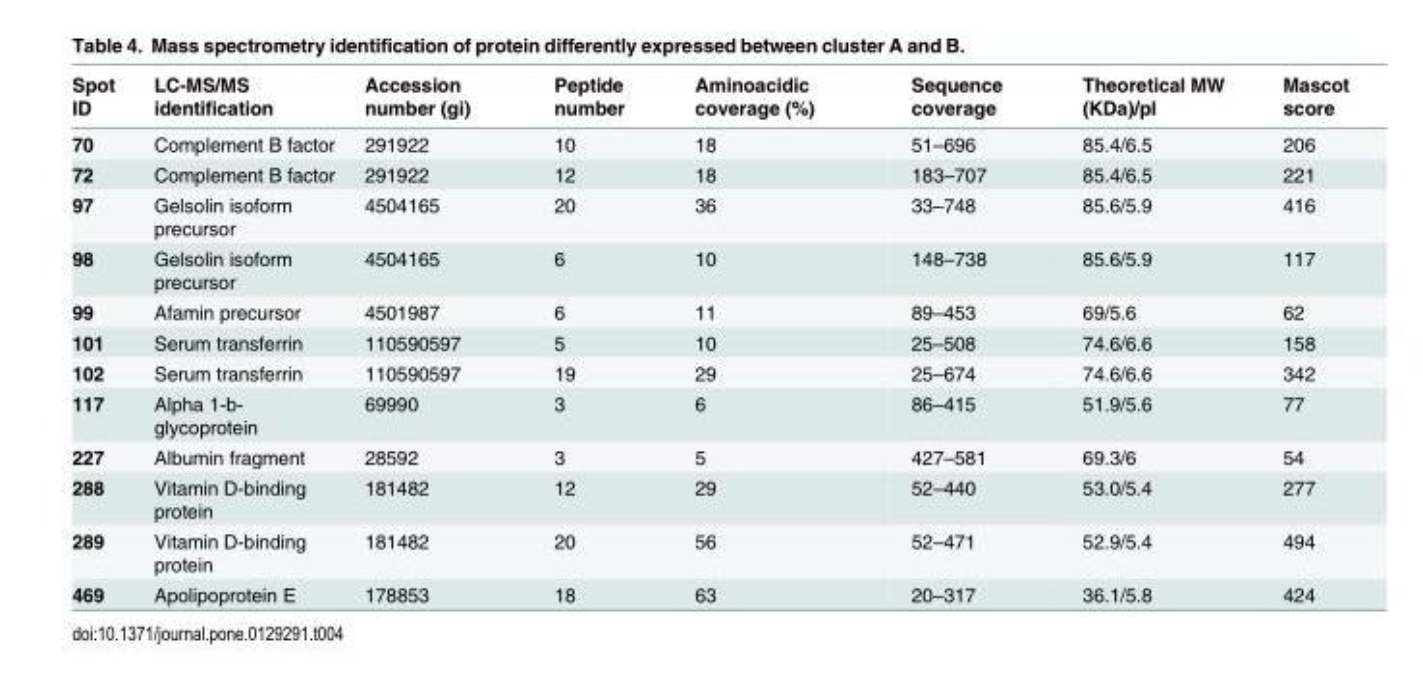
<table><thead><tr><td>Spot ID</td><td>LC-MS/MS identification</td><td>Accession number (gi)</td><td>Peptide number</td><td>Aminoacidic coverage (%)</td><td>Sequence coverage</td><td>Theoretical MW (KDa)/pI</td><td>Mascot score</td></tr></thead><tbody><tr><td>70</td><td>Complement B factor</td><td>291922</td><td>10</td><td>18</td><td>51–696</td><td>85.4/6.5</td><td>206</td></tr><tr><td>72</td><td>Complement B factor</td><td>291922</td><td>12</td><td>18</td><td>183–707</td><td>85.4/6.5</td><td>221</td></tr><tr><td>97</td><td>Gelsolin isoform precursor</td><td>4504165</td><td>20</td><td>36</td><td>33–748</td><td>85.6/5.9</td><td>416</td></tr><tr><td>98</td><td>Gelsolin isoform precursor</td><td>4504165</td><td>6</td><td>10</td><td>148–738</td><td>85.6/5.9</td><td>117</td></tr><tr><td>99</td><td>Afamin precursor</td><td>4501987</td><td>6</td><td>11</td><td>89–453</td><td>69/5.6</td><td>62</td></tr><tr><td>101</td><td>Serum transferrin</td><td>110590597</td><td>5</td><td>10</td><td>25–508</td><td>74.6/6.6</td><td>158</td></tr><tr><td>102</td><td>Serum transferrin</td><td>110590597</td><td>19</td><td>29</td><td>25–674</td><td>74.6/6.6</td><td>342</td></tr><tr><td>117</td><td>Alpha 1-b- glycoprotein</td><td>69990</td><td>3</td><td>6</td><td>86–415</td><td>51.9/5.6</td><td>77</td></tr><tr><td>227</td><td>Albumin fragment</td><td>28592</td><td>3</td><td>5</td><td>427–581</td><td>69.3/6</td><td>54</td></tr><tr><td>288</td><td>Vitamin D-binding protein</td><td>181482</td><td>12</td><td>29</td><td>52–440</td><td>53.0/5.4</td><td>277</td></tr><tr><td>289</td><td>Vitamin D-binding protein</td><td>181482</td><td>20</td><td>56</td><td>52–471</td><td>52.9/5.4</td><td>494</td></tr><tr><td>469</td><td>Apolipoprotein E</td><td>178853</td><td>18</td><td>63</td><td>20–317</td><td>36.1/5.8</td><td>424</td></tr></tbody></table>